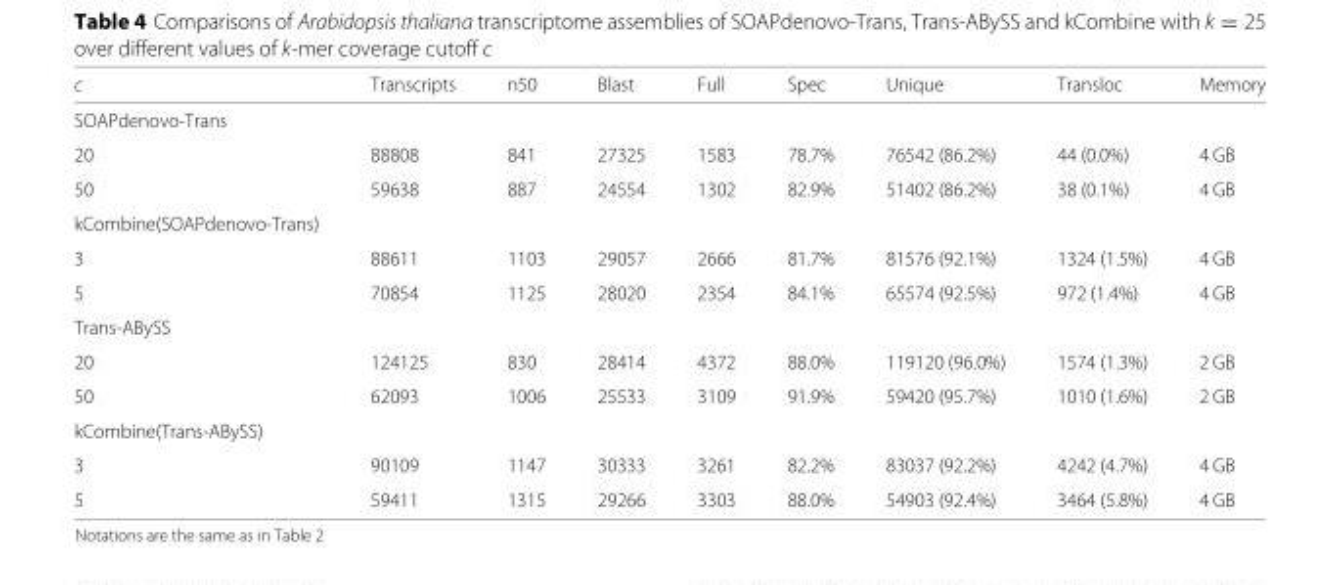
<table><thead><tr><td>c</td><td>Transcripts</td><td>n50</td><td>Blast</td><td>Full</td><td>Spec</td><td>Unique</td><td>Transloc</td><td>Memory</td></tr></thead><tbody><tr><td colspan="9">SOAPdenovo-Trans</td></tr><tr><td>20</td><td>88808</td><td>841</td><td>27325</td><td>1583</td><td>78.7%</td><td>76542 (86.2%)</td><td>44 (0.0%)</td><td>4 GB</td></tr><tr><td>50</td><td>59638</td><td>887</td><td>24554</td><td>1302</td><td>82.9%</td><td>51402 (86.2%)</td><td>38 (0.1%)</td><td>4 GB</td></tr><tr><td colspan="9">kCombine(SOAPdenovo-Trans)</td></tr><tr><td>3</td><td>88611</td><td>1103</td><td>29057</td><td>2666</td><td>81.7%</td><td>81576 (92.1%)</td><td>1324 (1.5%)</td><td>4 GB</td></tr><tr><td>5</td><td>70854</td><td>1125</td><td>28020</td><td>2354</td><td>84.1%</td><td>65574 (92.5%)</td><td>972 (1.4%)</td><td>4 GB</td></tr><tr><td colspan="9">Trans-ABySS</td></tr><tr><td>20</td><td>124125</td><td>830</td><td>28414</td><td>4372</td><td>88.0%</td><td>119120 (96.0%)</td><td>1574 (1.3%)</td><td>2 GB</td></tr><tr><td>50</td><td>62093</td><td>1006</td><td>25533</td><td>3109</td><td>91.9%</td><td>59420 (95.7%)</td><td>1010 (1.6%)</td><td>2 GB</td></tr><tr><td colspan="9">kCombine(Trans-ABySS)</td></tr><tr><td>3</td><td>90109</td><td>1147</td><td>30333</td><td>3261</td><td>82.2%</td><td>83037 (92.2%)</td><td>4242 (4.7%)</td><td>4 GB</td></tr><tr><td>5</td><td>59411</td><td>1315</td><td>29266</td><td>3303</td><td>88.0%</td><td>54903 (92.4%)</td><td>3464 (5.8%)</td><td>4 GB</td></tr></tbody></table>